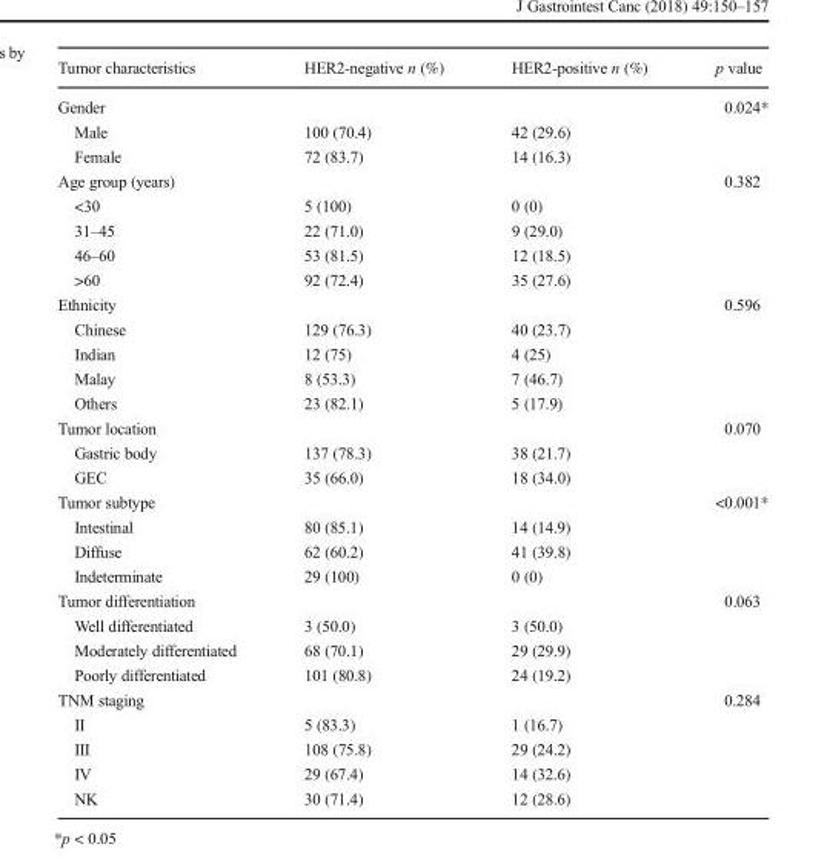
<table><thead><tr><td>Tumor characteristics</td><td>HER2-negative n (%)</td><td>HER2-positive n (%)</td><td>p value</td></tr></thead><tbody><tr><td>Gender</td><td></td><td></td><td>0.024*</td></tr><tr><td>Male</td><td>100 (70.4)</td><td>42 (29.6)</td><td></td></tr><tr><td>Female</td><td>72 (83.7)</td><td>14 (16.3)</td><td></td></tr><tr><td>Age group (years)</td><td></td><td></td><td>0.382</td></tr><tr><td>&lt;30</td><td>5 (100)</td><td>0 (0)</td><td></td></tr><tr><td>31–45</td><td>22 (71.0)</td><td>9 (29.0)</td><td></td></tr><tr><td>46–60</td><td>53 (81.5)</td><td>12 (18.5)</td><td></td></tr><tr><td>&gt;60</td><td>92 (72.4)</td><td>35 (27.6)</td><td></td></tr><tr><td>Ethnicity</td><td></td><td></td><td>0.596</td></tr><tr><td>Chinese</td><td>129 (76.3)</td><td>40 (23.7)</td><td></td></tr><tr><td>Indian</td><td>12 (75)</td><td>4 (25)</td><td></td></tr><tr><td>Malay</td><td>8 (53.3)</td><td>7 (46.7)</td><td></td></tr><tr><td>Others</td><td>23 (82.1)</td><td>5 (17.9)</td><td></td></tr><tr><td>Tumor location</td><td></td><td></td><td>0.070</td></tr><tr><td>Gastric body</td><td>137 (78.3)</td><td>38 (21.7)</td><td></td></tr><tr><td>GEC</td><td>35 (66.0)</td><td>18 (34.0)</td><td></td></tr><tr><td>Tumor subtype</td><td></td><td></td><td>&lt;0.001*</td></tr><tr><td>Intestinal</td><td>80 (85.1)</td><td>14 (14.9)</td><td></td></tr><tr><td>Diffuse</td><td>62 (60.2)</td><td>41 (39.8)</td><td></td></tr><tr><td>Indeterminate</td><td>29 (100)</td><td>0 (0)</td><td></td></tr><tr><td>Tumor differentiation</td><td></td><td></td><td>0.063</td></tr><tr><td>Well differentiated</td><td>3 (50.0)</td><td>3 (50.0)</td><td></td></tr><tr><td>Moderately differentiated</td><td>68 (70.1)</td><td>29 (29.9)</td><td></td></tr><tr><td>Poorly differentiated</td><td>101 (80.8)</td><td>24 (19.2)</td><td></td></tr><tr><td>TNM staging</td><td></td><td></td><td>0.284</td></tr><tr><td>II</td><td>5 (83.3)</td><td>1 (16.7)</td><td></td></tr><tr><td>III</td><td>108 (75.8)</td><td>29 (24.2)</td><td></td></tr><tr><td>IV</td><td>29 (67.4)</td><td>14 (32.6)</td><td></td></tr><tr><td>NK</td><td>30 (71.4)</td><td>12 (28.6)</td><td></td></tr></tbody></table>